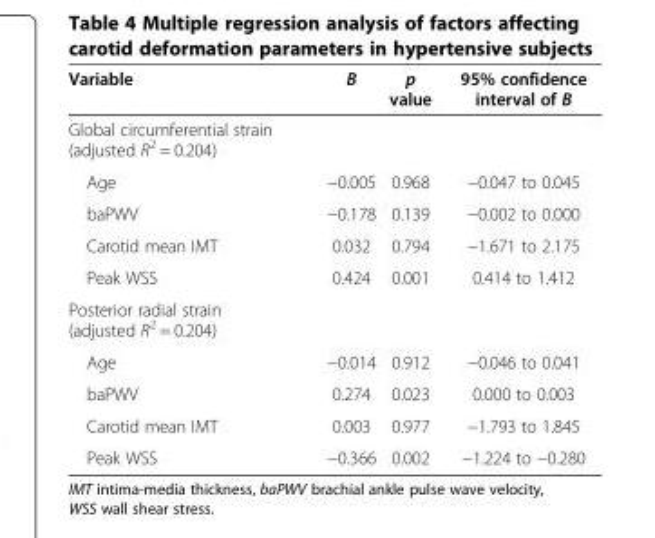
<table><thead><tr><td>Variable</td><td>B</td><td>p value</td><td>95% confidence interval of B</td></tr></thead><tbody><tr><td colspan="4">Global circumferential strain (adjusted R<sup>2</sup> = 0.204)</td></tr><tr><td>Age</td><td>−0.005</td><td>0.968</td><td>−0.047 to 0.045</td></tr><tr><td>baPWV</td><td>−0.178</td><td>0.139</td><td>−0.002 to 0.000</td></tr><tr><td>Carotid mean IMT</td><td>0.032</td><td>0.794</td><td>−1.671 to 2.175</td></tr><tr><td>Peak WSS</td><td>0.424</td><td>0.001</td><td>0.414 to 1.412</td></tr><tr><td colspan="4">Posterior radial strain (adjusted R<sup>2</sup> = 0.204)</td></tr><tr><td>Age</td><td>−0.014</td><td>0.912</td><td>−0.046 to 0.041</td></tr><tr><td>baPWV</td><td>0.274</td><td>0.023</td><td>0.000 to 0.003</td></tr><tr><td>Carotid mean IMT</td><td>0.003</td><td>0.977</td><td>−1.793 to 1.845</td></tr><tr><td>Peak WSS</td><td>−0.366</td><td>0.002</td><td>−1.224 to −0.280</td></tr></tbody></table>